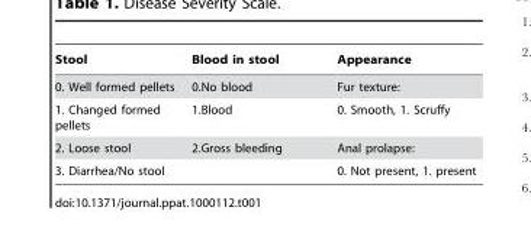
<table><thead><tr><td>Stool</td><td>Blood in stool</td><td>Appearance</td></tr></thead><tbody><tr><td>0. Well formed pellets</td><td>0.No blood</td><td>Fur texture:</td></tr><tr><td>1. Changed formed pellets</td><td>1.Blood</td><td>0. Smooth, 1. Scruffy</td></tr><tr><td>2. Loose stool</td><td>2.Gross bleeding</td><td>Anal prolapse:</td></tr><tr><td>3. Diarrhea/No stool</td><td></td><td>0. Not present, 1. present</td></tr></tbody></table>